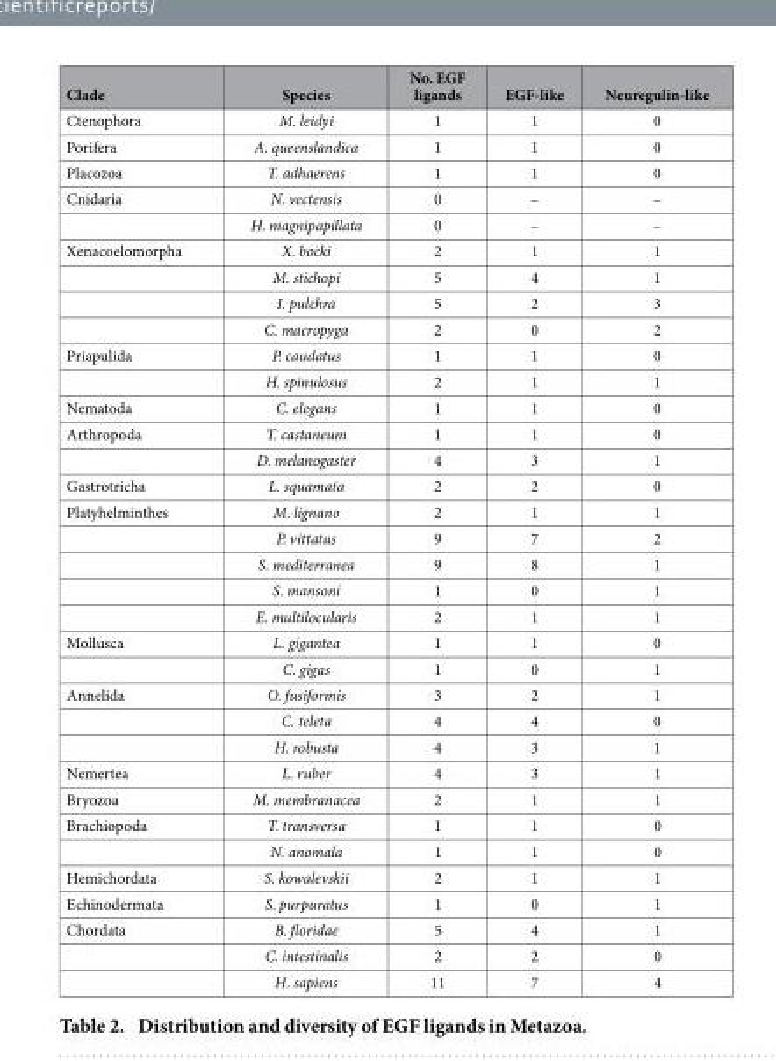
<table><thead><tr><td>Clade</td><td>Species</td><td>No. EGF ligands</td><td>EGF-like</td><td>Neuregulin-like</td></tr></thead><tbody><tr><td>Ctenophora</td><td>M. leidyi</td><td>1</td><td>1</td><td>0</td></tr><tr><td>Porifera</td><td>A. queenslandica</td><td>1</td><td>1</td><td>0</td></tr><tr><td>Placozoa</td><td>T. adhaerens</td><td>1</td><td>1</td><td>0</td></tr><tr><td rowspan="2">Cnidaria</td><td>N. vectensis</td><td>0</td><td>–</td><td>–</td></tr><tr><td>H. magnipapillata</td><td>0</td><td>–</td><td>–</td></tr><tr><td rowspan="4">Xenacoelomorpha</td><td>X. bocki</td><td>2</td><td>1</td><td>1</td></tr><tr><td>M. stichopi</td><td>5</td><td>4</td><td>1</td></tr><tr><td>I. pulchra</td><td>5</td><td>2</td><td>3</td></tr><tr><td>C. macropyga</td><td>2</td><td>0</td><td>2</td></tr><tr><td rowspan="2">Priapulida</td><td>P. caudatus</td><td>1</td><td>1</td><td>0</td></tr><tr><td>H. spinulosus</td><td>2</td><td>1</td><td>1</td></tr><tr><td>Nematoda</td><td>C. elegans</td><td>1</td><td>1</td><td>0</td></tr><tr><td rowspan="2">Arthropoda</td><td>T. castaneum</td><td>1</td><td>1</td><td>0</td></tr><tr><td>D. melanogaster</td><td>4</td><td>3</td><td>1</td></tr><tr><td>Gastrotricha</td><td>L. squamata</td><td>2</td><td>2</td><td>0</td></tr><tr><td rowspan="5">Platyhelminthes</td><td>M. lignano</td><td>2</td><td>1</td><td>1</td></tr><tr><td>P. vittatus</td><td>9</td><td>7</td><td>2</td></tr><tr><td>S. mediterranea</td><td>9</td><td>8</td><td>1</td></tr><tr><td>S. mansoni</td><td>1</td><td>0</td><td>1</td></tr><tr><td>E. multilocularis</td><td>2</td><td>1</td><td>1</td></tr><tr><td rowspan="2">Mollusca</td><td>L. gigantea</td><td>1</td><td>1</td><td>0</td></tr><tr><td>C. gigas</td><td>1</td><td>0</td><td>1</td></tr><tr><td rowspan="3">Annelida</td><td>O. fusiformis</td><td>3</td><td>2</td><td>1</td></tr><tr><td>C. teleta</td><td>4</td><td>4</td><td>0</td></tr><tr><td>H. robusta</td><td>4</td><td>3</td><td>1</td></tr><tr><td>Nemertea</td><td>L. ruber</td><td>4</td><td>3</td><td>1</td></tr><tr><td>Bryozoa</td><td>M. membranacea</td><td>2</td><td>1</td><td>1</td></tr><tr><td rowspan="2">Brachiopoda</td><td>T. transversa</td><td>1</td><td>1</td><td>0</td></tr><tr><td>N. anomala</td><td>1</td><td>1</td><td>0</td></tr><tr><td>Hemichordata</td><td>S. kowalevskii</td><td>2</td><td>1</td><td>1</td></tr><tr><td>Echinodermata</td><td>S. purpuratus</td><td>1</td><td>0</td><td>1</td></tr><tr><td rowspan="3">Chordata</td><td>B. floridae</td><td>5</td><td>4</td><td>1</td></tr><tr><td>C. intestinalis</td><td>2</td><td>2</td><td>0</td></tr><tr><td>H. sapiens</td><td>11</td><td>7</td><td>4</td></tr></tbody></table>